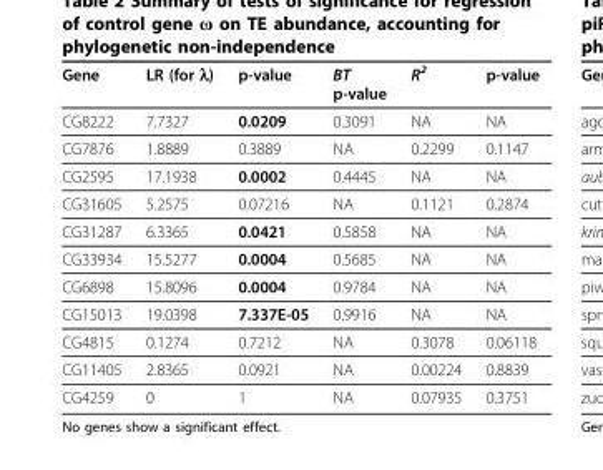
<table><thead><tr><td>Gene</td><td>LR (for λ)</td><td>p-value</td><td>BT p-value</td><td>R<sup>2</sup></td><td>p-value</td></tr></thead><tbody><tr><td>CG8222</td><td>7.7327</td><td>0.0209</td><td>0.3091</td><td>NA</td><td>NA</td></tr><tr><td>CG7876</td><td>1.8889</td><td>0.3889</td><td>NA</td><td>0.2299</td><td>0.1147</td></tr><tr><td>CG2595</td><td>17.1938</td><td>0.0002</td><td>0.4445</td><td>NA</td><td>NA</td></tr><tr><td>CG31605</td><td>5.2575</td><td>0.07216</td><td>NA</td><td>0.1121</td><td>0.2874</td></tr><tr><td>CG31287</td><td>6.3365</td><td>0.0421</td><td>0.5858</td><td>NA</td><td>NA</td></tr><tr><td>CG33934</td><td>15.5277</td><td>0.0004</td><td>0.5685</td><td>NA</td><td>NA</td></tr><tr><td>CG6898</td><td>15.8096</td><td>0.0004</td><td>0.9784</td><td>NA</td><td>NA</td></tr><tr><td>CG15013</td><td>19.0398</td><td>7.337E-05</td><td>0.9916</td><td>NA</td><td>NA</td></tr><tr><td>CG4815</td><td>0.1274</td><td>0.7212</td><td>NA</td><td>0.3078</td><td>0.06118</td></tr><tr><td>CG11405</td><td>2.8365</td><td>0.0921</td><td>NA</td><td>0.00224</td><td>0.8839</td></tr><tr><td>CG4259</td><td>0</td><td>1</td><td>NA</td><td>0.07935</td><td>0.3751</td></tr></tbody></table>